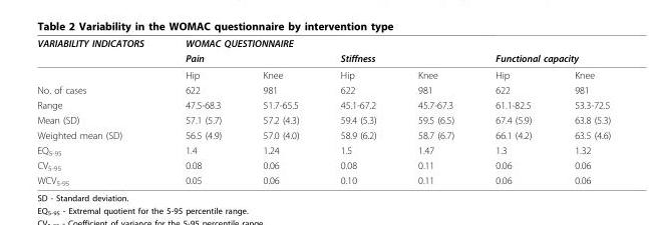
<table><thead><tr><td rowspan="3">VARIABILITY INDICATORS</td><td colspan="6">WOMAC QUESTIONNAIRE</td></tr><tr><td colspan="2">Pain</td><td colspan="2">Stiffness</td><td colspan="2">Functional capacity</td></tr><tr><td>Hip</td><td>Knee</td><td>Hip</td><td>Knee</td><td>Hip</td><td>Knee</td></tr></thead><tbody><tr><td>No. of cases</td><td>622</td><td>981</td><td>622</td><td>981</td><td>622</td><td>981</td></tr><tr><td>Range</td><td>47.5-68.3</td><td>51.7-65.5</td><td>45.1-67.2</td><td>45.7-67.3</td><td>61.1-82.5</td><td>53.3-72.5</td></tr><tr><td>Mean (SD)</td><td>57.1 (5.7)</td><td>57.2 (4.3)</td><td>59.4 (5.3)</td><td>59.5 (6.5)</td><td>67.4 (5.9)</td><td>63.8 (5.3)</td></tr><tr><td>Weighted mean (SD)</td><td>56.5 (4.9)</td><td>57.0 (4.0)</td><td>58.9 (6.2)</td><td>58.7 (6.7)</td><td>66.1 (4.2)</td><td>63.5 (4.6)</td></tr><tr><td>EQ<sub>5-95</sub></td><td>1.4</td><td>1.24</td><td>1.5</td><td>1.47</td><td>1.3</td><td>1.32</td></tr><tr><td>CV<sub>5-95</sub></td><td>0.08</td><td>0.06</td><td>0.08</td><td>0.11</td><td>0.06</td><td>0.06</td></tr><tr><td>WCV<sub>5-95</sub></td><td>0.05</td><td>0.06</td><td>0.10</td><td>0.11</td><td>0.06</td><td>0.06</td></tr></tbody></table>